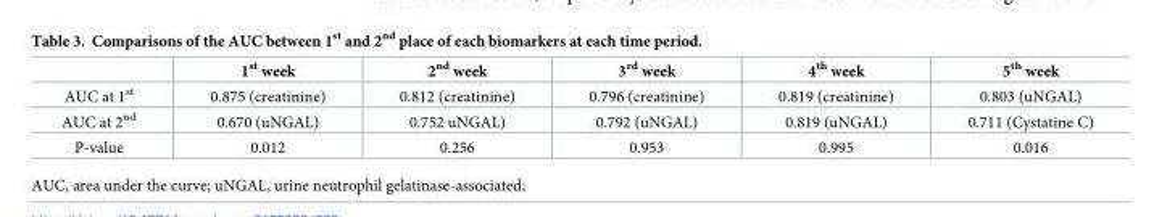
<table><thead><tr><td></td><td>1<sup>st</sup> week</td><td>2<sup>nd</sup> week</td><td>3<sup>rd</sup> week</td><td>4<sup>th</sup> week</td><td>5<sup>th</sup> week</td></tr></thead><tbody><tr><td>AUC at 1<sup>st</sup></td><td>0.875 (creatinine)</td><td>0.812 (creatinine)</td><td>0.796 (creatinine)</td><td>0.819 (creatinine)</td><td>0.803 (uNGAL)</td></tr><tr><td>AUC at 2<sup>nd</sup></td><td>0.670 (uNGAL)</td><td>0.752 uNGAL)</td><td>0.792 (uNGAL)</td><td>0.819 (uNGAL)</td><td>0.711 (Cystatine C)</td></tr><tr><td>P-value</td><td>0.012</td><td>0.256</td><td>0.953</td><td>0.995</td><td>0.016</td></tr></tbody></table>